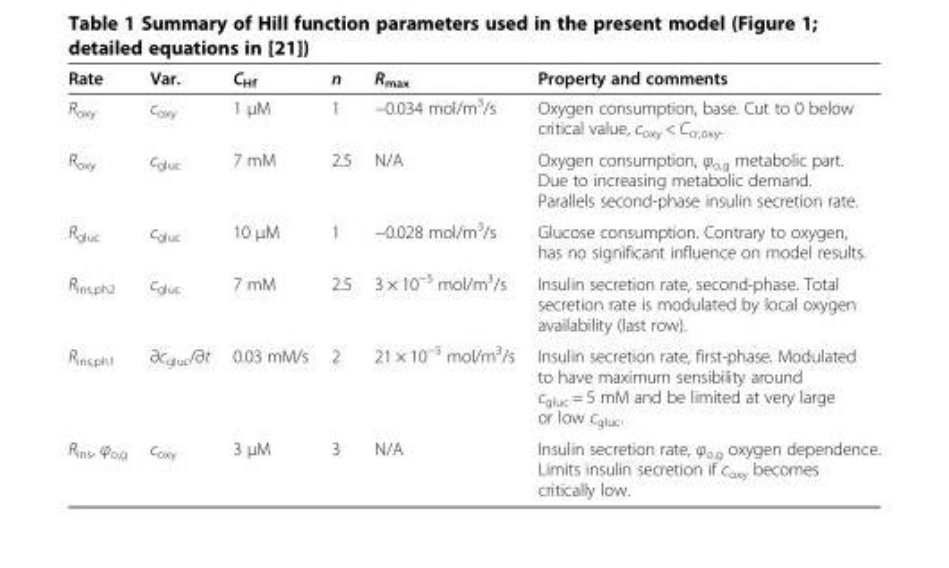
<table><thead><tr><td>Rate</td><td>Var.</td><td>C<sub>Hf</sub></td><td>n</td><td>R<sub>max</sub></td><td>Property and comments</td></tr></thead><tbody><tr><td>R<sub>oxy</sub></td><td>c<sub>oxy</sub></td><td>1 μM</td><td>1</td><td>−0.034 mol/m<sup>3</sup>/s</td><td>Oxygen consumption, base. Cut to 0 below critical value, c<sub>oxy</sub> &lt; C<sub>cr,oxy</sub>.</td></tr><tr><td>R<sub>oxy</sub></td><td>c<sub>gluc</sub></td><td>7 mM</td><td>2.5</td><td>N/A</td><td>Oxygen consumption, φ<sub>o,g</sub> metabolic part. Due to increasing metabolic demand. Parallels second-phase insulin secretion rate.</td></tr><tr><td>R<sub>gluc</sub></td><td>c<sub>gluc</sub></td><td>10 μM</td><td>1</td><td>−0.028 mol/m<sup>3</sup>/s</td><td>Glucose consumption. Contrary to oxygen, has no significant influence on model results.</td></tr><tr><td>R<sub>ins,ph2</sub></td><td>c<sub>gluc</sub></td><td>7 mM</td><td>2.5</td><td>3 × 10<sup>−5</sup> mol/m<sup>3</sup>/s</td><td>Insulin secretion rate, second-phase. Total secretion rate is modulated by local oxygen availability (last row).</td></tr><tr><td>R<sub>ins,ph1</sub></td><td>∂c<sub>gluc</sub>/∂t</td><td>0.03 mM/s</td><td>2</td><td>21 × 10<sup>−5</sup> mol/m<sup>3</sup>/s</td><td>Insulin secretion rate, first-phase. Modulated to have maximum sensibility around c<sub>gluc</sub> = 5 mM and be limited at very large or low c<sub>gluc</sub>.</td></tr><tr><td>R<sub>ins</sub>, φ<sub>o,g</sub></td><td>c<sub>oxy</sub></td><td>3 μM</td><td>3</td><td>N/A</td><td>Insulin secretion rate, φ<sub>o,g</sub> oxygen dependence. Limits insulin secretion if c<sub>oxy</sub> becomes critically low.</td></tr></tbody></table>